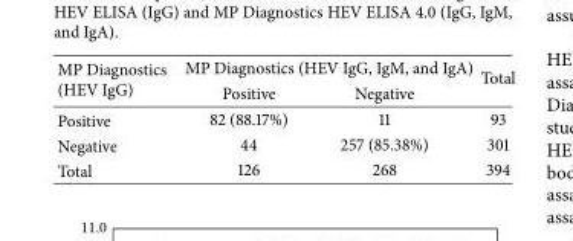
<table><thead><tr><td rowspan="2">MP Diagnostics (HEV IgG)</td><td colspan="2">MP Diagnostics (HEV IgG, IgM, and IgA)</td><td rowspan="2">Total</td></tr><tr><td>Positive</td><td>Negative</td></tr></thead><tbody><tr><td>Positive</td><td>82 (88.17%)</td><td>11</td><td>93</td></tr><tr><td>Negative</td><td>44</td><td>257 (85.38%)</td><td>301</td></tr><tr><td>Total</td><td>126</td><td>268</td><td>394</td></tr></tbody></table>